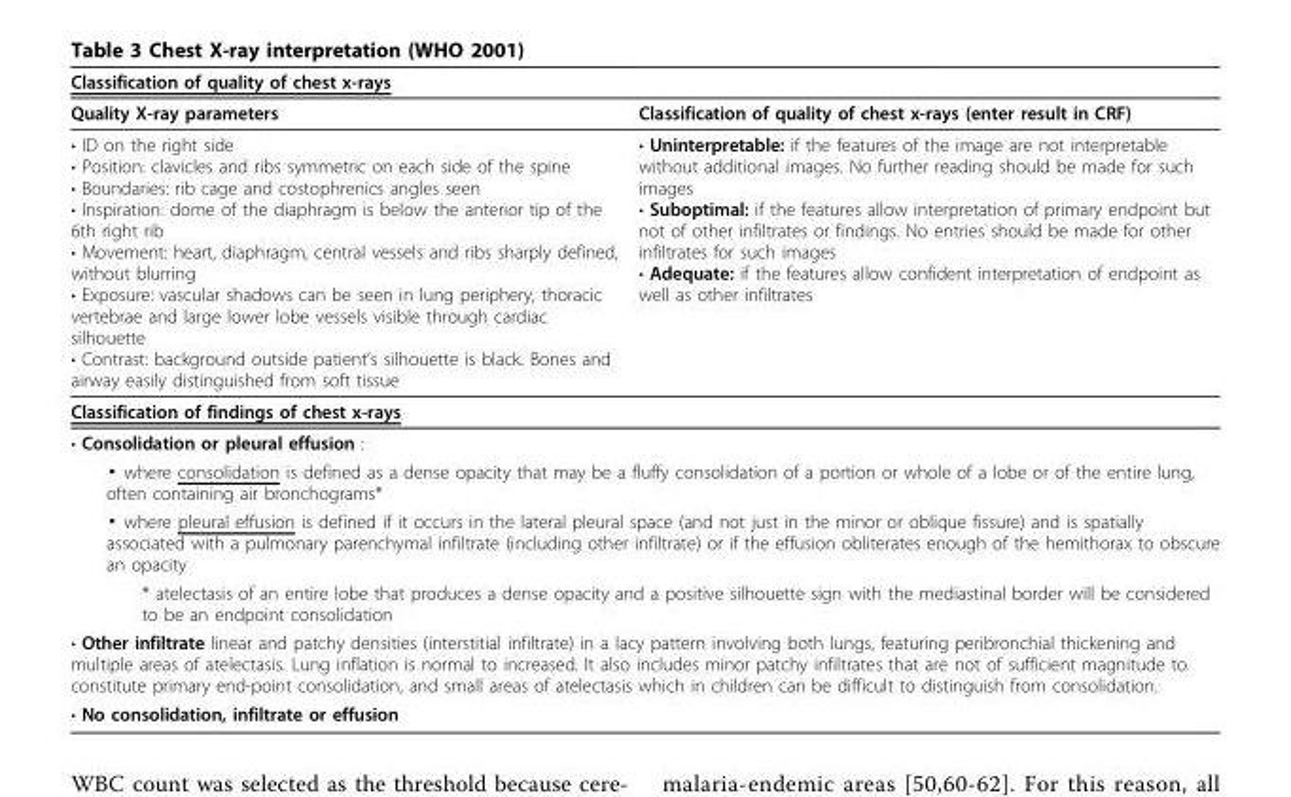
<table><thead><tr><td colspan="2">Classification of quality of chest x-rays</td></tr><tr><td>Quality X-ray parameters</td><td>Classification of quality of chest x-rays (enter result in CRF)</td></tr></thead><tbody><tr><td>• ID on the right side • Position: clavicles and ribs symmetric on each side of the spine • Boundaries: rib cage and costophrenics angles seen • Inspiration: dome of the diaphragm is below the anterior tip of the 6th right rib • Movement: heart, diaphragm, central vessels and ribs sharply defined, without blurring • Exposure: vascular shadows can be seen in lung periphery, thoracic vertebrae and large lower lobe vessels visible through cardiac silhouette • Contrast: background outside patient’s silhouette is black. Bones and airway easily distinguished from soft tissue</td><td>• Uninterpretable: if the features of the image are not interpretable without additional images. No further reading should be made for such images • Suboptimal: if the features allow interpretation of primary endpoint but not of other infiltrates or findings. No entries should be made for other infiltrates for such images • Adequate: if the features allow confident interpretation of endpoint as well as other infiltrates</td></tr><tr><td colspan="2">Classification of findings of chest x-rays</td></tr><tr><td colspan="2">• Consolidation or pleural effusion :</td></tr><tr><td colspan="2">▪ where consolidation is defined as a dense opacity that may be a fluffy consolidation of a portion or whole of a lobe or of the entire lung, often containing air bronchograms*</td></tr><tr><td colspan="2">▪ where pleural effusion is defined if it occurs in the lateral pleural space (and not just in the minor or oblique fissure) and is spatially associated with a pulmonary parenchymal infiltrate (including other infiltrate) or if the effusion obliterates enough of the hemithorax to obscure an opacity</td></tr><tr><td colspan="2">* atelectasis of an entire lobe that produces a dense opacity and a positive silhouette sign with the mediastinal border will be considered to be an endpoint consolidation</td></tr><tr><td colspan="2">• Other infiltrate linear and patchy densities (interstitial infiltrate) in a lacy pattern involving both lungs, featuring peribronchial thickening and multiple areas of atelectasis. Lung inflation is normal to increased. It also includes minor patchy infiltrates that are not of sufficient magnitude to constitute primary end-point consolidation, and small areas of atelectasis which in children can be difficult to distinguish from consolidation.</td></tr><tr><td colspan="2">• No consolidation, infiltrate or effusion</td></tr></tbody></table>